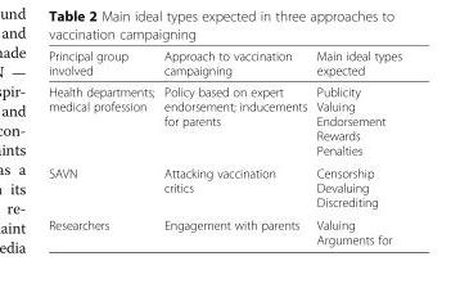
<table><thead><tr><td>Principal group involved</td><td>Approach to vaccination campaigning</td><td>Main ideal types expected</td></tr></thead><tbody><tr><td>Health departments; medical profession</td><td>Policy based on expert endorsement; inducements for parents</td><td>Publicity Valuing Endorsement Rewards Penalties</td></tr><tr><td>SAVN</td><td>Attacking vaccination critics</td><td>Censorship Devaluing Discrediting</td></tr><tr><td>Researchers</td><td>Engagement with parents</td><td>Valuing Arguments for</td></tr></tbody></table>